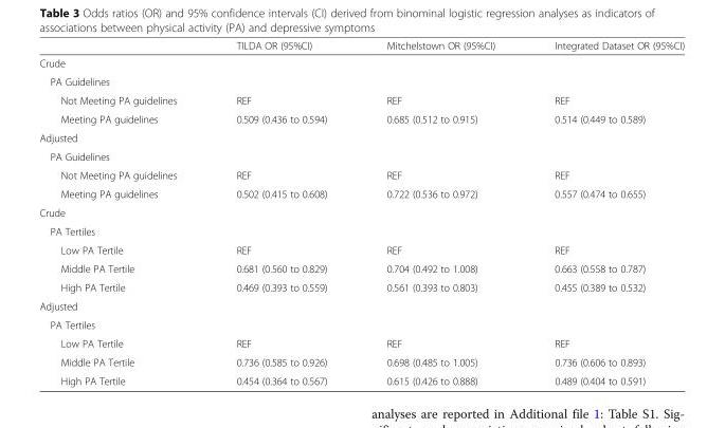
<table><thead><tr><td></td><td>TILDA OR (95%CI)</td><td>Mitchelstown OR (95%CI)</td><td>Integrated Dataset OR (95%CI)</td></tr></thead><tbody><tr><td colspan="4">Crude</td></tr><tr><td colspan="4">PA Guidelines</td></tr><tr><td>Not Meeting PA guidelines</td><td>REF</td><td>REF</td><td>REF</td></tr><tr><td>Meeting PA guidelines</td><td>0.509 (0.436 to 0.594)</td><td>0.685 (0.512 to 0.915)</td><td>0.514 (0.449 to 0.589)</td></tr><tr><td colspan="4">Adjusted</td></tr><tr><td colspan="4">PA Guidelines</td></tr><tr><td>Not Meeting PA guidelines</td><td>REF</td><td>REF</td><td>REF</td></tr><tr><td>Meeting PA guidelines</td><td>0.502 (0.415 to 0.608)</td><td>0.722 (0.536 to 0.972)</td><td>0.557 (0.474 to 0.655)</td></tr><tr><td colspan="4">Crude</td></tr><tr><td colspan="4">PA Tertiles</td></tr><tr><td>Low PA Tertile</td><td>REF</td><td>REF</td><td>REF</td></tr><tr><td>Middle PA Tertile</td><td>0.681 (0.560 to 0.829)</td><td>0.704 (0.492 to 1.008)</td><td>0.663 (0.558 to 0.787)</td></tr><tr><td>High PA Tertile</td><td>0.469 (0.393 to 0.559)</td><td>0.561 (0.393 to 0.803)</td><td>0.455 (0.389 to 0.532)</td></tr><tr><td colspan="4">Adjusted</td></tr><tr><td colspan="4">PA Tertiles</td></tr><tr><td>Low PA Tertile</td><td>REF</td><td>REF</td><td>REF</td></tr><tr><td>Middle PA Tertile</td><td>0.736 (0.585 to 0.926)</td><td>0.698 (0.485 to 1.005)</td><td>0.736 (0.606 to 0.893)</td></tr><tr><td>High PA Tertile</td><td>0.454 (0.364 to 0.567)</td><td>0.615 (0.426 to 0.888)</td><td>0.489 (0.404 to 0.591)</td></tr></tbody></table>